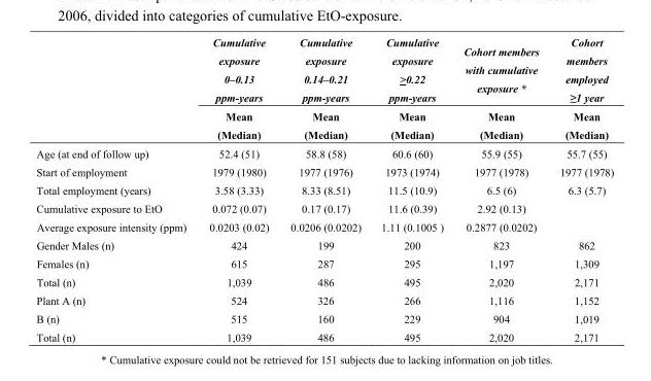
<table><thead><tr><td rowspan="2"></td><td rowspan="2">Cumulative exposure 0–0.13 ppm-years Mean (Median)</td><td rowspan="2">Cumulative exposure 0.14–0.21 ppm-years Mean (Median)</td><td rowspan="2">Cumulative exposure &gt;0.22 ppm-years Mean (Median)</td><td rowspan="2">Cohort members with cumulative exposure * Mean (Median)</td><td rowspan="2">Cohort members employed ≥1 year Mean (Median)</td></tr><tr></tr></thead><tbody><tr><td>Age (at end of follow up)</td><td>52.4 (51)</td><td>58.8 (58)</td><td>60.6 (60)</td><td>55.9 (55)</td><td>55.7 (55)</td></tr><tr><td>Start of employment</td><td>1979 (1980)</td><td>1977 (1976)</td><td>1973 (1974)</td><td>1977 (1978)</td><td>1977 (1978)</td></tr><tr><td>Total employment (years)</td><td>3.58 (3.33)</td><td>8.33 (8.51)</td><td>11.5 (10.9)</td><td>6.5 (6)</td><td>6.3 (5.7)</td></tr><tr><td>Cumulative exposure to EtO</td><td>0.072 (0.07)</td><td>0.17 (0.17)</td><td>11.6 (0.39)</td><td>2.92 (0.13)</td><td></td></tr><tr><td>Average exposure intensity (ppm)</td><td>0.0203 (0.02)</td><td>0.0206 (0.0202)</td><td>1.11 (0.1005 )</td><td>0.2877 (0.0202)</td><td></td></tr><tr><td>Gender Males (n)</td><td>424</td><td>199</td><td>200</td><td>823</td><td>862</td></tr><tr><td>Females (n)</td><td>615</td><td>287</td><td>295</td><td>1,197</td><td>1,309</td></tr><tr><td>Total (n)</td><td>1,039</td><td>486</td><td>495</td><td>2,020</td><td>2,171</td></tr><tr><td>Plant A (n)</td><td>524</td><td>326</td><td>266</td><td>1,116</td><td>1,152</td></tr><tr><td>B (n)</td><td>515</td><td>160</td><td>229</td><td>904</td><td>1,019</td></tr><tr><td>Total (n)</td><td>1,039</td><td>486</td><td>495</td><td>2,020</td><td>2,171</td></tr></tbody></table>